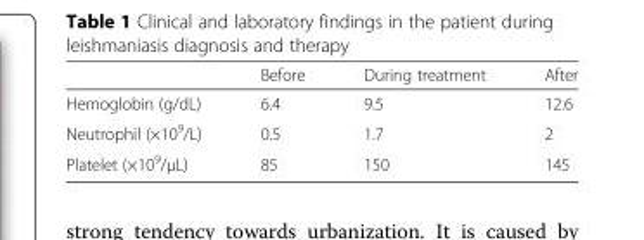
<table><thead><tr><td></td><td>Before</td><td>During treatment</td><td>After</td></tr></thead><tbody><tr><td>Hemoglobin (g/dL)</td><td>6.4</td><td>9.5</td><td>12.6</td></tr><tr><td>Neutrophil (×10<sup>9</sup>/L)</td><td>0.5</td><td>1.7</td><td>2</td></tr><tr><td>Platelet (×10<sup>9</sup>/μL)</td><td>85</td><td>150</td><td>145</td></tr></tbody></table>